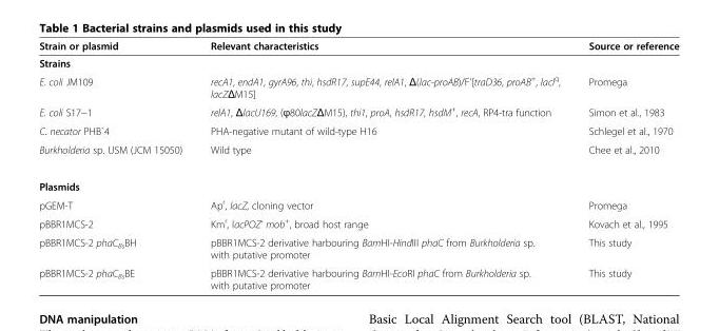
<table><thead><tr><td>Strain or plasmid</td><td>Relevant characteristics</td><td>Source or reference</td></tr></thead><tbody><tr><td colspan="3">Strains</td></tr><tr><td>E. coli JM109</td><td>recA1, endA1, gyrA96, thi, hsdR17, supE44, relA1, Δ(lac-proAB)/F&#x27;[traD36, proAB<sup>+</sup>, lacI<sup>q</sup>, lacZΔM15]</td><td>Promega</td></tr><tr><td>E. coli S17−1</td><td>relA1, ΔlacU169, (ϕ80lacZΔM15), thi1, proA, hsdR17, hsdM<sup>+</sup>, recA, RP4-tra function</td><td>Simon et al., 1983</td></tr><tr><td>C. necator PHB¯4</td><td>PHA-negative mutant of wild-type H16</td><td>Schlegel et al., 1970</td></tr><tr><td>Burkholderia sp. USM (JCM 15050)</td><td>Wild type</td><td>Chee et al., 2010</td></tr><tr><td colspan="3">Plasmids</td></tr><tr><td>pGEM-T</td><td>Ap<sup>r</sup>, lacZ, cloning vector</td><td>Promega</td></tr><tr><td>pBBR1MCS-2</td><td>Km<sup>r</sup>, lacPOZ&#x27; mob<sup>+</sup>, broad host range</td><td>Kovach et al., 1995</td></tr><tr><td>pBBR1MCS-2 phaC<sub>Bs</sub>BH</td><td>pBBR1MCS-2 derivative harbouring BamHI-HindIII phaC from Burkholderia sp. with putative promoter</td><td>This study</td></tr><tr><td>pBBR1MCS-2 phaC<sub>Bs</sub>BE</td><td>pBBR1MCS-2 derivative harbouring BamHI-EcoRI phaC from Burkholderia sp. with putative promoter</td><td>This study</td></tr></tbody></table>